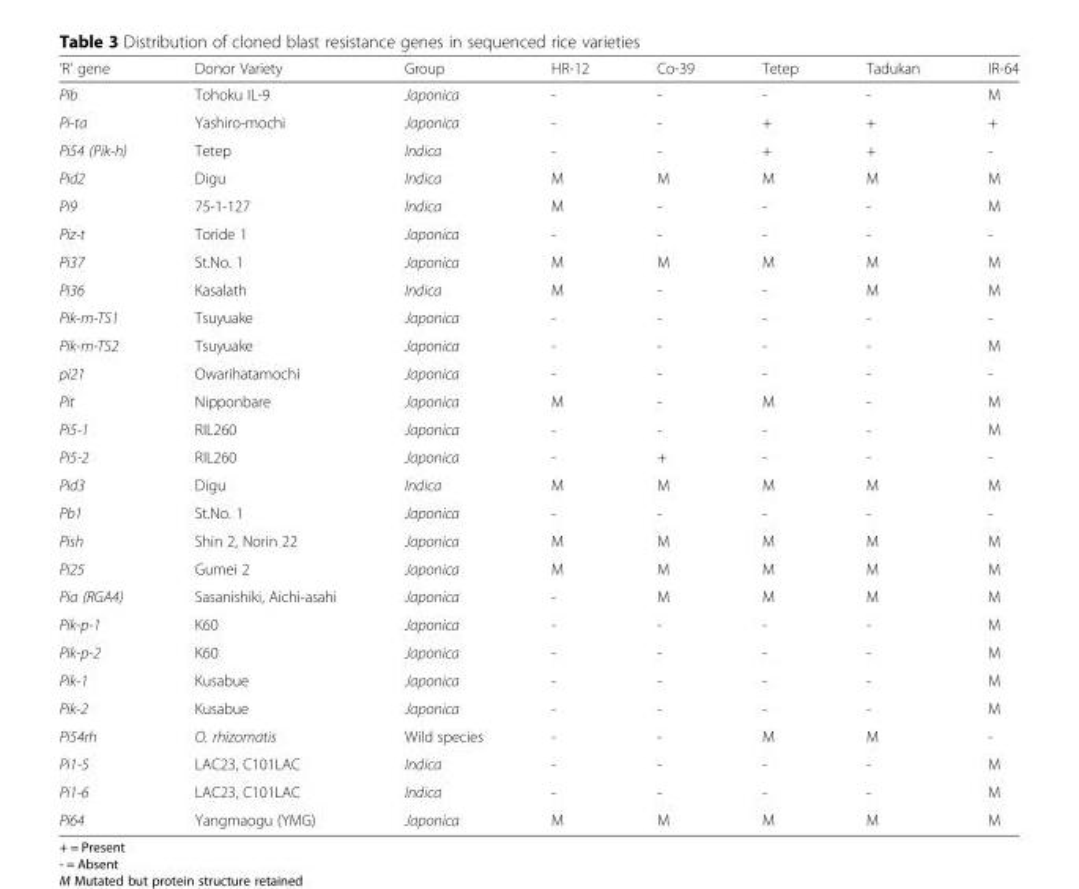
<table><thead><tr><td>‘R&#x27; gene</td><td>Donor Variety</td><td>Group</td><td>HR-12</td><td>Co-39</td><td>Tetep</td><td>Tadukan</td><td>IR-64</td></tr></thead><tbody><tr><td>Pib</td><td>Tohoku IL-9</td><td>Japonica</td><td>-</td><td>-</td><td>-</td><td>-</td><td>M</td></tr><tr><td>Pi-ta</td><td>Yashiro-mochi</td><td>Japonica</td><td>-</td><td>-</td><td>+</td><td>+</td><td>+</td></tr><tr><td>Pi54 (Pik-h)</td><td>Tetep</td><td>Indica</td><td>-</td><td>-</td><td>+</td><td>+</td><td>-</td></tr><tr><td>Pid2</td><td>Digu</td><td>Indica</td><td>M</td><td>M</td><td>M</td><td>M</td><td>M</td></tr><tr><td>Pi9</td><td>75-1-127</td><td>Indica</td><td>M</td><td>-</td><td>-</td><td>-</td><td>M</td></tr><tr><td>Piz-t</td><td>Toride 1</td><td>Japonica</td><td>-</td><td>-</td><td>-</td><td>-</td><td>-</td></tr><tr><td>Pi37</td><td>St.No. 1</td><td>Japonica</td><td>M</td><td>M</td><td>M</td><td>M</td><td>M</td></tr><tr><td>Pi36</td><td>Kasalath</td><td>Indica</td><td>M</td><td>-</td><td>-</td><td>M</td><td>M</td></tr><tr><td>Pik-m-TS1</td><td>Tsuyuake</td><td>Japonica</td><td>-</td><td>-</td><td>-</td><td>-</td><td>-</td></tr><tr><td>Pik-m-TS2</td><td>Tsuyuake</td><td>Japonica</td><td>-</td><td>-</td><td>-</td><td>-</td><td>M</td></tr><tr><td>pi21</td><td>Owarihatamochi</td><td>Japonica</td><td>-</td><td>-</td><td>-</td><td>-</td><td>-</td></tr><tr><td>Pit</td><td>Nipponbare</td><td>Japonica</td><td>M</td><td>-</td><td>M</td><td>-</td><td>M</td></tr><tr><td>Pi5-1</td><td>RIL260</td><td>Japonica</td><td>-</td><td>-</td><td>-</td><td>-</td><td>M</td></tr><tr><td>Pi5-2</td><td>RIL260</td><td>Japonica</td><td>-</td><td>+</td><td>-</td><td>-</td><td>-</td></tr><tr><td>Pid3</td><td>Digu</td><td>Indica</td><td>M</td><td>M</td><td>M</td><td>M</td><td>M</td></tr><tr><td>Pb1</td><td>St.No. 1</td><td>Japonica</td><td>-</td><td>-</td><td>-</td><td>-</td><td>-</td></tr><tr><td>Pish</td><td>Shin 2, Norin 22</td><td>Japonica</td><td>M</td><td>M</td><td>M</td><td>M</td><td>M</td></tr><tr><td>Pi25</td><td>Gumei 2</td><td>Japonica</td><td>M</td><td>M</td><td>M</td><td>M</td><td>M</td></tr><tr><td>Pia (RGA4)</td><td>Sasanishiki, Aichi-asahi</td><td>Japonica</td><td>-</td><td>M</td><td>M</td><td>M</td><td>M</td></tr><tr><td>Pik-p-1</td><td>K60</td><td>Japonica</td><td>-</td><td>-</td><td>-</td><td>-</td><td>M</td></tr><tr><td>Pik-p-2</td><td>K60</td><td>Japonica</td><td>-</td><td>-</td><td>-</td><td>-</td><td>M</td></tr><tr><td>Pik-1</td><td>Kusabue</td><td>Japonica</td><td>-</td><td>-</td><td>-</td><td>-</td><td>M</td></tr><tr><td>Pik-2</td><td>Kusabue</td><td>Japonica</td><td>-</td><td>-</td><td>-</td><td>-</td><td>M</td></tr><tr><td>Pi54rh</td><td>O. rhizomatis</td><td>Wild species</td><td>-</td><td>-</td><td>M</td><td>M</td><td>-</td></tr><tr><td>Pi1-5</td><td>LAC23, C101LAC</td><td>Indica</td><td>-</td><td>-</td><td>-</td><td>-</td><td>M</td></tr><tr><td>Pi1-6</td><td>LAC23, C101LAC</td><td>Indica</td><td>-</td><td>-</td><td>-</td><td>-</td><td>M</td></tr><tr><td>Pi64</td><td>Yangmaogu (YMG)</td><td>Japonica</td><td>M</td><td>M</td><td>M</td><td>M</td><td>M</td></tr></tbody></table>